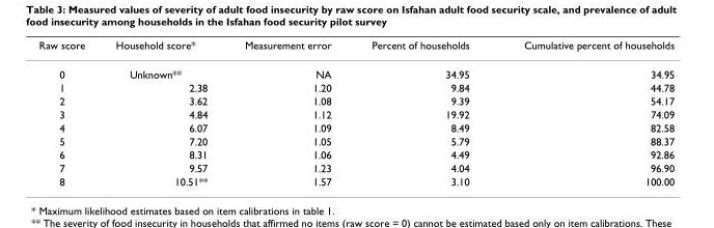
<table><thead><tr><td>Raw score</td><td>Household score*</td><td>Measurement error</td><td>Percent of households</td><td>Cumulative percent of households</td></tr></thead><tbody><tr><td>0</td><td>Unknown**</td><td>NA</td><td>34.95</td><td>34.95</td></tr><tr><td>1</td><td>2.38</td><td>1.20</td><td>9.84</td><td>44.78</td></tr><tr><td>2</td><td>3.62</td><td>1.08</td><td>9.39</td><td>54.17</td></tr><tr><td>3</td><td>4.84</td><td>1.12</td><td>19.92</td><td>74.09</td></tr><tr><td>4</td><td>6.07</td><td>1.09</td><td>8.49</td><td>82.58</td></tr><tr><td>5</td><td>7.20</td><td>1.05</td><td>5.79</td><td>88.37</td></tr><tr><td>6</td><td>8.31</td><td>1.06</td><td>4.49</td><td>92.86</td></tr><tr><td>7</td><td>9.57</td><td>1.23</td><td>4.04</td><td>96.90</td></tr><tr><td>8</td><td>10.51**</td><td>1.57</td><td>3.10</td><td>100.00</td></tr></tbody></table>